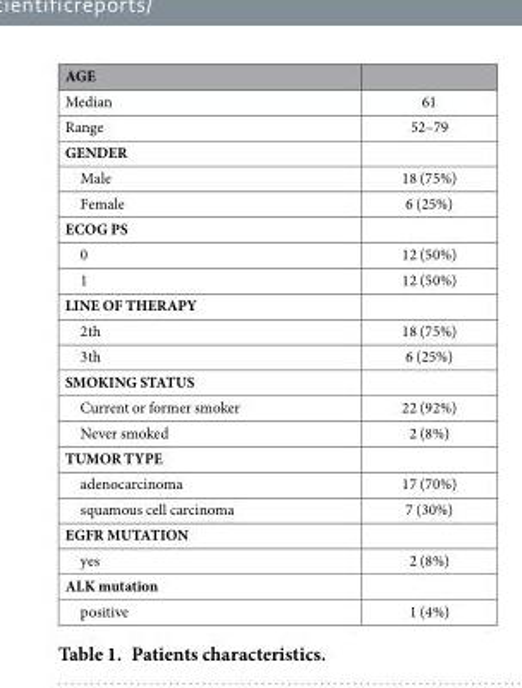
<table><thead><tr><td>AGE</td><td></td></tr></thead><tbody><tr><td>Median</td><td>61</td></tr><tr><td>Range</td><td>52–79</td></tr><tr><td colspan="2">GENDER</td></tr><tr><td>Male</td><td>18 (75%)</td></tr><tr><td>Female</td><td>6 (25%)</td></tr><tr><td colspan="2">ECOG PS</td></tr><tr><td>0</td><td>12 (50%)</td></tr><tr><td>1</td><td>12 (50%)</td></tr><tr><td colspan="2">LINE OF THERAPY</td></tr><tr><td>2th</td><td>18 (75%)</td></tr><tr><td>3th</td><td>6 (25%)</td></tr><tr><td colspan="2">SMOKING STATUS</td></tr><tr><td>Current or former smoker</td><td>22 (92%)</td></tr><tr><td>Never smoked</td><td>2 (8%)</td></tr><tr><td colspan="2">TUMOR TYPE</td></tr><tr><td>adenocarcinoma</td><td>17 (70%)</td></tr><tr><td>squamous cell carcinoma</td><td>7 (30%)</td></tr><tr><td colspan="2">EGFR MUTATION</td></tr><tr><td>yes</td><td>2 (8%)</td></tr><tr><td colspan="2">ALK mutation</td></tr><tr><td>positive</td><td>1 (4%)</td></tr></tbody></table>